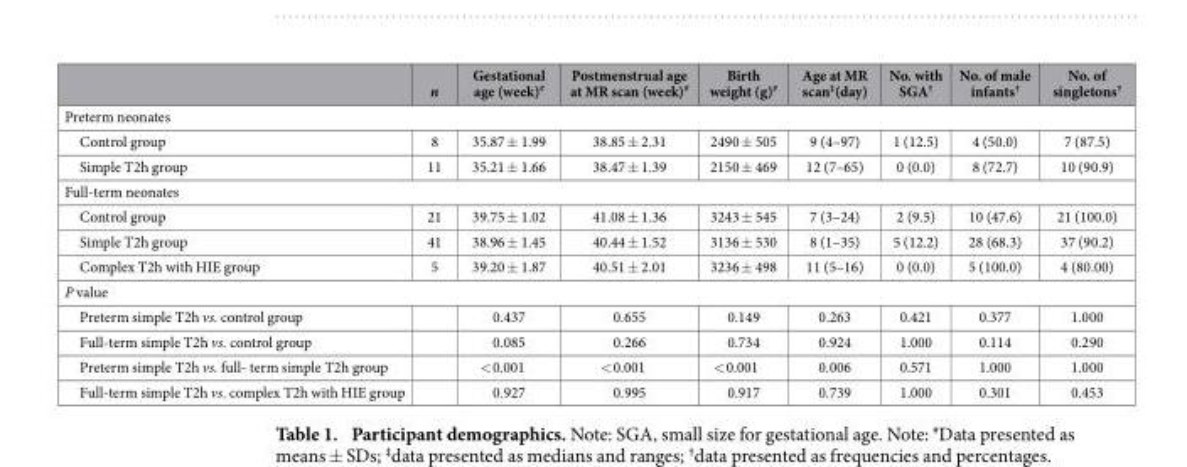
<table><thead><tr><td></td><td>n</td><td>Gestational age (week)#</td><td>Postmenstrual age at MR scan (week)#</td><td>Birth weight (g)#</td><td>Age at MR scan‡(day)</td><td>No. with SGA†</td><td>No. of male infants†</td><td>No. of singletons†</td></tr></thead><tbody><tr><td colspan="9">Preterm neonates</td></tr><tr><td>Control group</td><td>8</td><td>35.87 ± 1.99</td><td>38.85 ± 2.31</td><td>2490 ± 505</td><td>9 (4–97)</td><td>1 (12.5)</td><td>4 (50.0)</td><td>7 (87.5)</td></tr><tr><td>Simple T2h group</td><td>11</td><td>35.21 ± 1.66</td><td>38.47 ± 1.39</td><td>2150 ± 469</td><td>12 (7–65)</td><td>0 (0.0)</td><td>8 (72.7)</td><td>10 (90.9)</td></tr><tr><td colspan="9">Full-term neonates</td></tr><tr><td>Control group</td><td>21</td><td>39.75 ± 1.02</td><td>41.08 ± 1.36</td><td>3243 ± 545</td><td>7 (3–24)</td><td>2 (9.5)</td><td>10 (47.6)</td><td>21 (100.0)</td></tr><tr><td>Simple T2h group</td><td>41</td><td>38.96 ± 1.45</td><td>40.44 ± 1.52</td><td>3136 ± 530</td><td>8 (1–35)</td><td>5 (12.2)</td><td>28 (68.3)</td><td>37 (90.2)</td></tr><tr><td>Complex T2h with HIE group</td><td>5</td><td>39.20 ± 1.87</td><td>40.51 ± 2.01</td><td>3236 ± 498</td><td>11 (5–16)</td><td>0 (0.0)</td><td>5 (100.0)</td><td>4 (80.00)</td></tr><tr><td colspan="9">P value</td></tr><tr><td>Preterm simple T2h vs. control group</td><td></td><td>0.437</td><td>0.655</td><td>0.149</td><td>0.263</td><td>0.421</td><td>0.377</td><td>1.000</td></tr><tr><td>Full-term simple T2h vs. control group</td><td></td><td>0.085</td><td>0.266</td><td>0.734</td><td>0.924</td><td>1.000</td><td>0.114</td><td>0.290</td></tr><tr><td>Preterm simple T2h vs. full- term simple T2h group</td><td></td><td>&lt; 0.001</td><td>&lt; 0.001</td><td>&lt; 0.001</td><td>0.006</td><td>0.571</td><td>1.000</td><td>1.000</td></tr><tr><td>Full-term simple T2h vs. complex T2h with HIE group</td><td></td><td>0.927</td><td>0.995</td><td>0.917</td><td>0.739</td><td>1.000</td><td>0.301</td><td>0.453</td></tr></tbody></table>